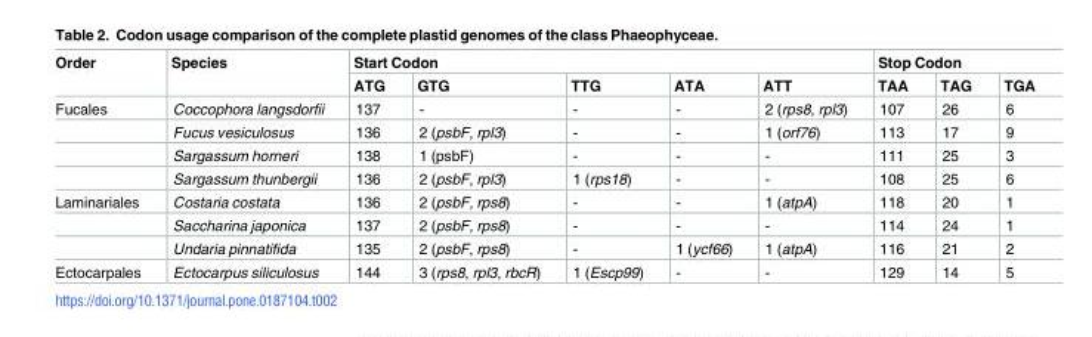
<table><thead><tr><td rowspan="2">Order</td><td rowspan="2">Species</td><td colspan="5">Start Codon</td><td colspan="3">Stop Codon</td></tr><tr><td>ATG</td><td>GTG</td><td>TTG</td><td>ATA</td><td>ATT</td><td>TAA</td><td>TAG</td><td>TGA</td></tr></thead><tbody><tr><td rowspan="4">Fucales</td><td>Coccophora langsdorfii</td><td>137</td><td>-</td><td>-</td><td>-</td><td>2 (rps8, rpl3)</td><td>107</td><td>26</td><td>6</td></tr><tr><td>Fucus vesiculosus</td><td>136</td><td>2 (psbF, rpl3)</td><td>-</td><td>-</td><td>1 (orf76)</td><td>113</td><td>17</td><td>9</td></tr><tr><td>Sargassum horneri</td><td>138</td><td>1 (psbF)</td><td>-</td><td>-</td><td>-</td><td>111</td><td>25</td><td>3</td></tr><tr><td>Sargassum thunbergii</td><td>136</td><td>2 (psbF, rpl3)</td><td>1 (rps18)</td><td>-</td><td>-</td><td>108</td><td>25</td><td>6</td></tr><tr><td rowspan="3">Laminariales</td><td>Costaria costata</td><td>136</td><td>2 (psbF, rps8)</td><td>-</td><td>-</td><td>1 (atpA)</td><td>118</td><td>20</td><td>1</td></tr><tr><td>Saccharina japonica</td><td>137</td><td>2 (psbF, rps8)</td><td>-</td><td>-</td><td>-</td><td>114</td><td>24</td><td>1</td></tr><tr><td>Undaria pinnatifida</td><td>135</td><td>2 (psbF, rps8)</td><td>-</td><td>1 (ycf66)</td><td>1 (atpA)</td><td>116</td><td>21</td><td>2</td></tr><tr><td>Ectocarpales</td><td>Ectocarpus siliculosus</td><td>144</td><td>3 (rps8, rpl3, rbcR)</td><td>1 (Escp99)</td><td>-</td><td>-</td><td>129</td><td>14</td><td>5</td></tr></tbody></table>